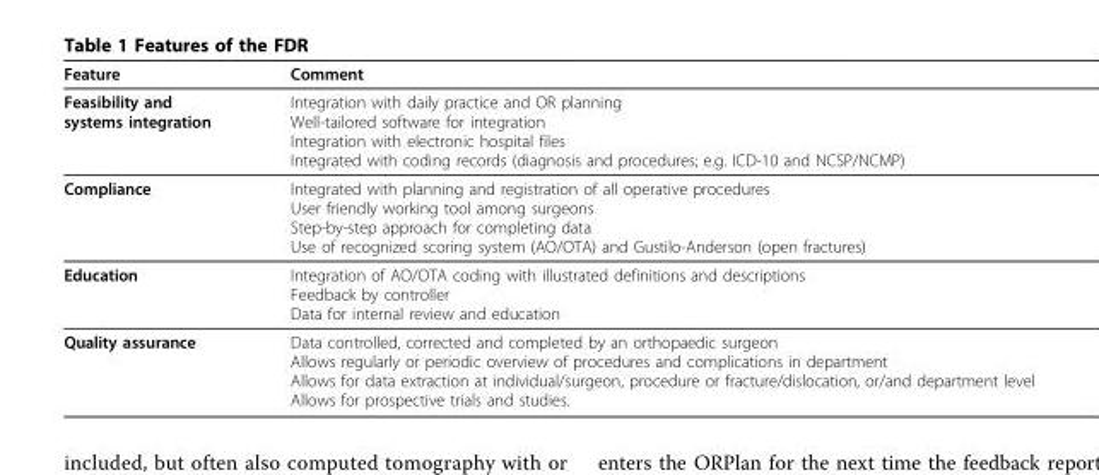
<table><thead><tr><td>Feature</td><td>Comment</td></tr></thead><tbody><tr><td>Feasibility and systems integration</td><td>Integration with daily practice and OR planning Well-tailored software for integration Integration with electronic hospital files Integrated with coding records (diagnosis and procedures; e.g. ICD-10 and NCSP/NCMP)</td></tr><tr><td>Compliance</td><td>Integrated with planning and registration of all operative procedures User friendly working tool among surgeons Step-by-step approach for completing data Use of recognized scoring system (AO/OTA) and Gustilo-Anderson (open fractures)</td></tr><tr><td>Education</td><td>Integration of AO/OTA coding with illustrated definitions and descriptions Feedback by controller Data for internal review and education</td></tr><tr><td>Quality assurance</td><td>Data controlled, corrected and completed by an orthopaedic surgeon Allows regularly or periodic overview of procedures and complications in department Allows for data extraction at individual/surgeon, procedure or fracture/dislocation, or/and department level Allows for prospective trials and studies.</td></tr></tbody></table>